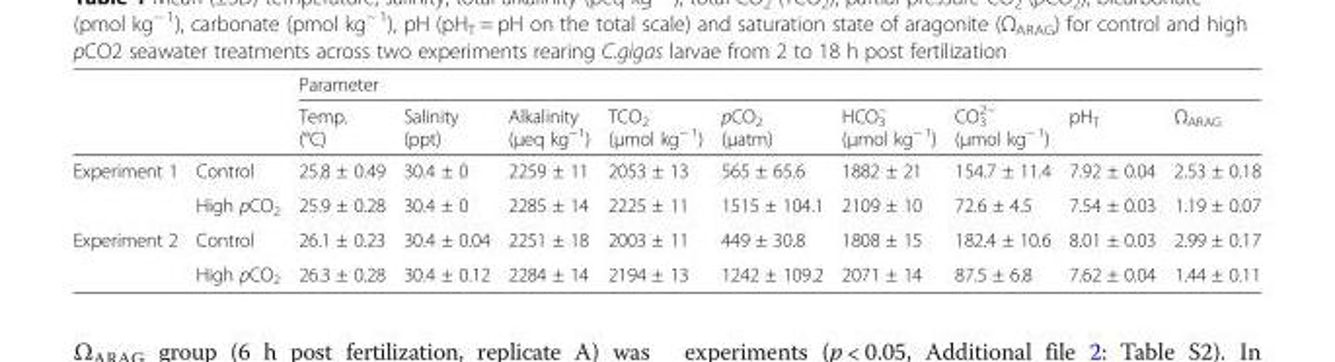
<table><thead><tr><td rowspan="2"></td><td rowspan="2"></td><td colspan="9">Parameter</td></tr><tr><td>Temp. (°C)</td><td>Salinity (ppt)</td><td>Alkalinity (μeq kg<sup>−1</sup>)</td><td>TCO<sub>2</sub> (μmol kg<sup>− 1</sup>)</td><td>pCO<sub>2</sub> (μatm)</td><td>HCO<sub>3</sub> <sup>−</sup> (μmol kg<sup>− 1</sup>)</td><td>CO<sub>3</sub> <sup>2−</sup> (μmol kg<sup>− 1</sup>)</td><td>pH<sub>T</sub></td><td>Ω<sub>ARAG</sub></td></tr></thead><tbody><tr><td rowspan="2">Experiment 1</td><td>Control</td><td>25.8 ± 0.49</td><td>30.4 ± 0</td><td>2259 ± 11</td><td>2053 ± 13</td><td>565 ± 65.6</td><td>1882 ± 21</td><td>154.7 ± 11.4</td><td>7.92 ± 0.04</td><td>2.53 ± 0.18</td></tr><tr><td>High pCO<sub>2</sub></td><td>25.9 ± 0.28</td><td>30.4 ± 0</td><td>2285 ± 14</td><td>2225 ± 11</td><td>1515 ± 104.1</td><td>2109 ± 10</td><td>72.6 ± 4.5</td><td>7.54 ± 0.03</td><td>1.19 ± 0.07</td></tr><tr><td rowspan="2">Experiment 2</td><td>Control</td><td>26.1 ± 0.23</td><td>30.4 ± 0.04</td><td>2251 ± 18</td><td>2003 ± 11</td><td>449 ± 30.8</td><td>1808 ± 15</td><td>182.4 ± 10.6</td><td>8.01 ± 0.03</td><td>2.99 ± 0.17</td></tr><tr><td>High pCO<sub>2</sub></td><td>26.3 ± 0.28</td><td>30.4 ± 0.12</td><td>2284 ± 14</td><td>2194 ± 13</td><td>1242 ± 109.2</td><td>2071 ± 14</td><td>87.5 ± 6.8</td><td>7.62 ± 0.04</td><td>1.44 ± 0.11</td></tr></tbody></table>